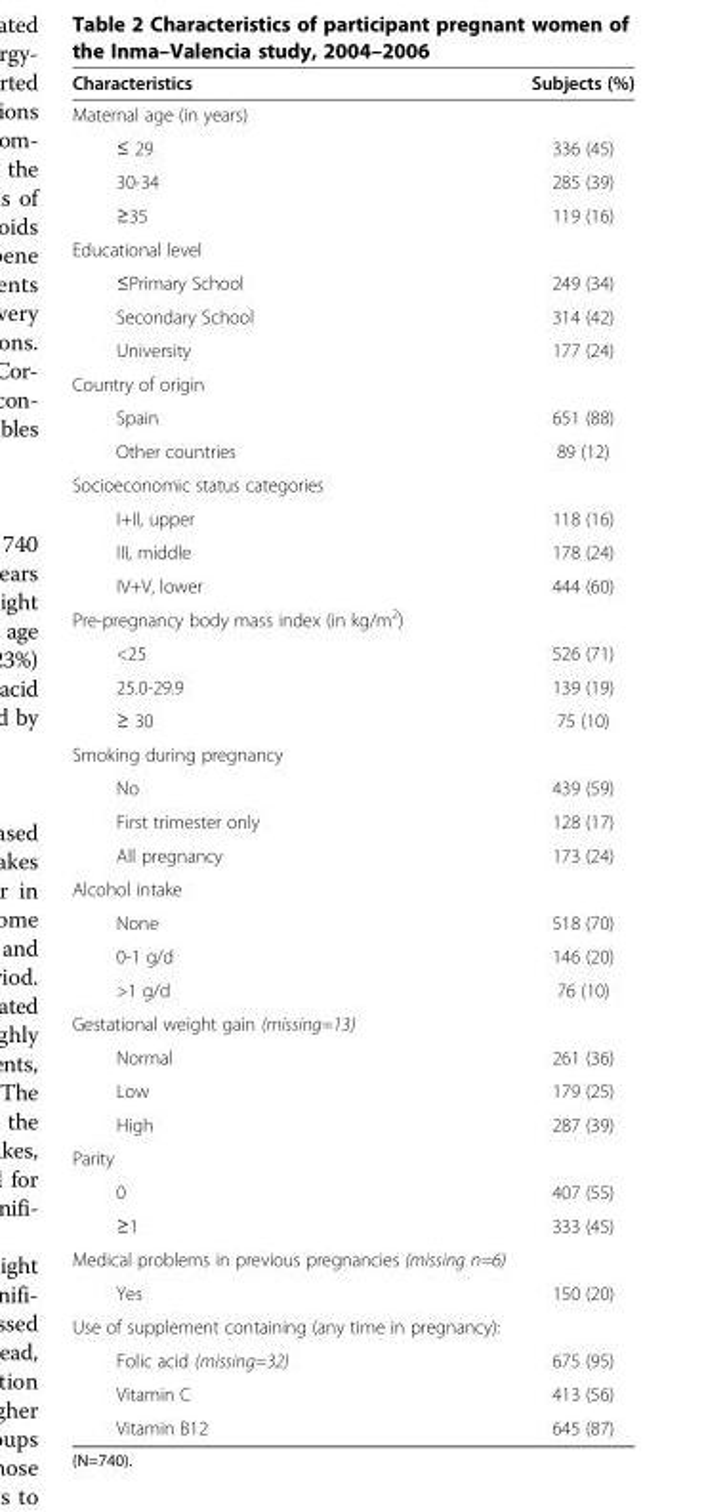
<table><thead><tr><td>Characteristics</td><td>Subjects (%)</td></tr></thead><tbody><tr><td colspan="2">Maternal age (in years)</td></tr><tr><td>≤ 29</td><td>336 (45)</td></tr><tr><td>30-34</td><td>285 (39)</td></tr><tr><td>≥35</td><td>119 (16)</td></tr><tr><td colspan="2">Educational level</td></tr><tr><td>≤Primary School</td><td>249 (34)</td></tr><tr><td>Secondary School</td><td>314 (42)</td></tr><tr><td>University</td><td>177 (24)</td></tr><tr><td colspan="2">Country of origin</td></tr><tr><td>Spain</td><td>651 (88)</td></tr><tr><td>Other countries</td><td>89 (12)</td></tr><tr><td colspan="2">Socioeconomic status categories</td></tr><tr><td>I+II, upper</td><td>118 (16)</td></tr><tr><td>III, middle</td><td>178 (24)</td></tr><tr><td>IV+V, lower</td><td>444 (60)</td></tr><tr><td colspan="2">Pre-pregnancy body mass index (in kg/m<sup>2</sup>)</td></tr><tr><td>&lt;25</td><td>526 (71)</td></tr><tr><td>25.0-29.9</td><td>139 (19)</td></tr><tr><td>≥ 30</td><td>75 (10)</td></tr><tr><td colspan="2">Smoking during pregnancy</td></tr><tr><td>No</td><td>439 (59)</td></tr><tr><td>First trimester only</td><td>128 (17)</td></tr><tr><td>All pregnancy</td><td>173 (24)</td></tr><tr><td colspan="2">Alcohol intake</td></tr><tr><td>None</td><td>518 (70)</td></tr><tr><td>0-1 g/d</td><td>146 (20)</td></tr><tr><td>&gt;1 g/d</td><td>76 (10)</td></tr><tr><td colspan="2">Gestational weight gain (missing=13)</td></tr><tr><td>Normal</td><td>261 (36)</td></tr><tr><td>Low</td><td>179 (25)</td></tr><tr><td>High</td><td>287 (39)</td></tr><tr><td colspan="2">Parity</td></tr><tr><td>0</td><td>407 (55)</td></tr><tr><td>≥1</td><td>333 (45)</td></tr><tr><td colspan="2">Medical problems in previous pregnancies (missing n=6)</td></tr><tr><td>Yes</td><td>150 (20)</td></tr><tr><td colspan="2">Use of supplement containing (any time in pregnancy):</td></tr><tr><td>Folic acid (missing=32)</td><td>675 (95)</td></tr><tr><td>Vitamin C</td><td>413 (56)</td></tr><tr><td>Vitamin B12</td><td>645 (87)</td></tr></tbody></table>